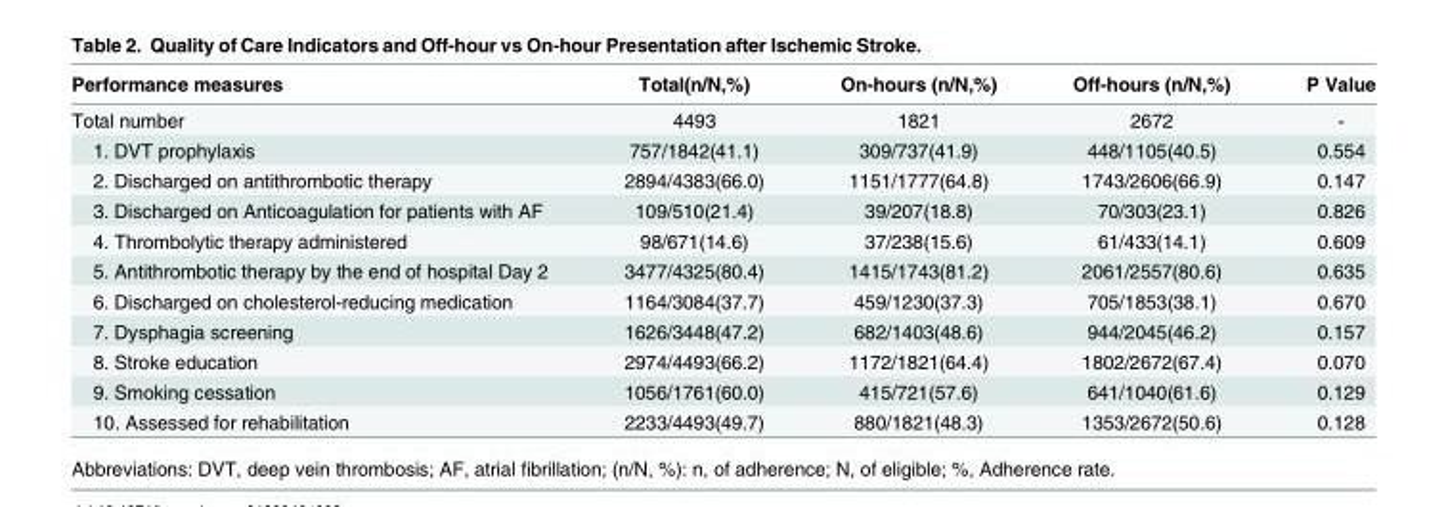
<table><thead><tr><td>Performance measures</td><td>Total(n/N,%)</td><td>On-hours (n/N,%)</td><td>Off-hours (n/N,%)</td><td>P Value</td></tr></thead><tbody><tr><td>Total number</td><td>4493</td><td>1821</td><td>2672</td><td>-</td></tr><tr><td>1. DVT prophylaxis</td><td>757/1842(41.1)</td><td>309/737(41.9)</td><td>448/1105(40.5)</td><td>0.554</td></tr><tr><td>2. Discharged on antithrombotic therapy</td><td>2894/4383(66.0)</td><td>1151/1777(64.8)</td><td>1743/2606(66.9)</td><td>0.147</td></tr><tr><td>3. Discharged on Anticoagulation for patients with AF</td><td>109/510(21.4)</td><td>39/207(18.8)</td><td>70/303(23.1)</td><td>0.826</td></tr><tr><td>4. Thrombolytic therapy administered</td><td>98/671(14.6)</td><td>37/238(15.6)</td><td>61/433(14.1)</td><td>0.609</td></tr><tr><td>5. Antithrombotic therapy by the end of hospital Day 2</td><td>3477/4325(80.4)</td><td>1415/1743(81.2)</td><td>2061/2557(80.6)</td><td>0.635</td></tr><tr><td>6. Discharged on cholesterol-reducing medication</td><td>1164/3084(37.7)</td><td>459/1230(37.3)</td><td>705/1853(38.1)</td><td>0.670</td></tr><tr><td>7. Dysphagia screening</td><td>1626/3448(47.2)</td><td>682/1403(48.6)</td><td>944/2045(46.2)</td><td>0.157</td></tr><tr><td>8. Stroke education</td><td>2974/4493(66.2)</td><td>1172/1821(64.4)</td><td>1802/2672(67.4)</td><td>0.070</td></tr><tr><td>9. Smoking cessation</td><td>1056/1761(60.0)</td><td>415/721(57.6)</td><td>641/1040(61.6)</td><td>0.129</td></tr><tr><td>10. Assessed for rehabilitation</td><td>2233/4493(49.7)</td><td>880/1821(48.3)</td><td>1353/2672(50.6)</td><td>0.128</td></tr></tbody></table>